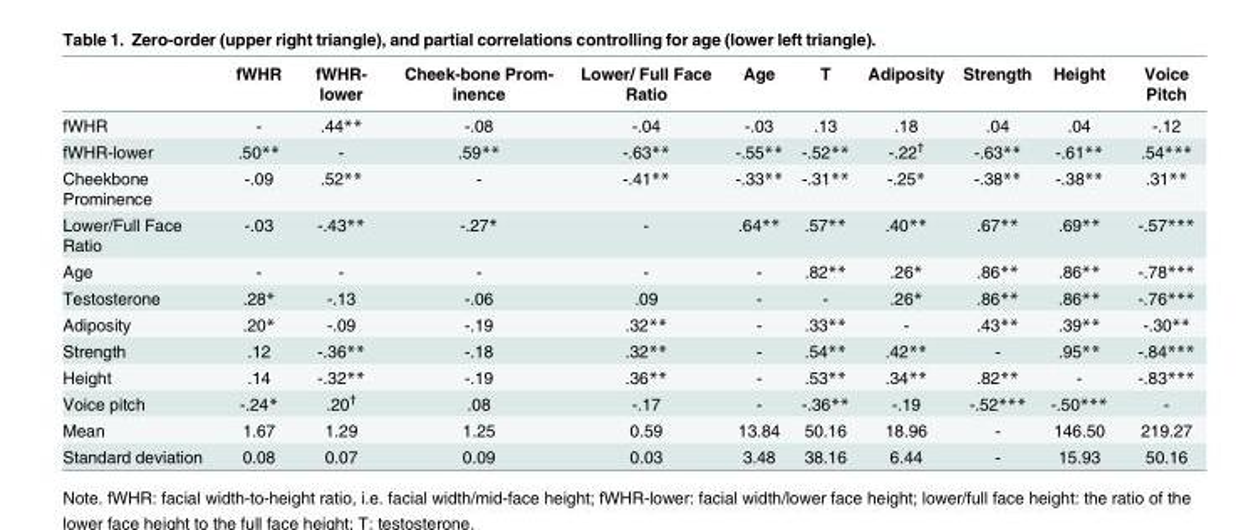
<table><thead><tr><td></td><td>fWHR</td><td>fWHR- lower</td><td>Cheek-bone Prom- inence</td><td>Lower/ Full Face Ratio</td><td>Age</td><td>T</td><td>Adiposity</td><td>Strength</td><td>Height</td><td>Voice Pitch</td></tr></thead><tbody><tr><td>fWHR</td><td>-</td><td>.44**</td><td>-.08</td><td>-.04</td><td>-.03</td><td>.13</td><td>.18</td><td>.04</td><td>.04</td><td>-.12</td></tr><tr><td>fWHR-lower</td><td>.50**</td><td>-</td><td>.59**</td><td>-.63**</td><td>-.55**</td><td>-.52**</td><td>-.22<sup>†</sup></td><td>-.63**</td><td>-.61**</td><td>.54***</td></tr><tr><td>Cheekbone Prominence</td><td>-.09</td><td>.52**</td><td>-</td><td>-.41**</td><td>-.33**</td><td>-.31**</td><td>-.25*</td><td>-.38**</td><td>-.38**</td><td>.31**</td></tr><tr><td>Lower/Full Face Ratio</td><td>-.03</td><td>-.43**</td><td>-.27*</td><td>-</td><td>.64**</td><td>.57**</td><td>.40**</td><td>.67**</td><td>.69**</td><td>-.57***</td></tr><tr><td>Age</td><td>-</td><td>-</td><td>-</td><td>-</td><td>-</td><td>.82**</td><td>.26*</td><td>.86**</td><td>.86**</td><td>-.78***</td></tr><tr><td>Testosterone</td><td>.28*</td><td>-.13</td><td>-.06</td><td>.09</td><td>-</td><td>-</td><td>.26*</td><td>.86**</td><td>.86**</td><td>-.76***</td></tr><tr><td>Adiposity</td><td>.20*</td><td>-.09</td><td>-.19</td><td>.32**</td><td>-</td><td>.33**</td><td>-</td><td>.43**</td><td>.39**</td><td>-.30**</td></tr><tr><td>Strength</td><td>.12</td><td>-.36**</td><td>-.18</td><td>.32**</td><td>-</td><td>.54**</td><td>.42**</td><td>-</td><td>.95**</td><td>-.84***</td></tr><tr><td>Height</td><td>.14</td><td>-.32**</td><td>-.19</td><td>.36**</td><td>-</td><td>.53**</td><td>.34**</td><td>.82**</td><td>-</td><td>-.83***</td></tr><tr><td>Voice pitch</td><td>-.24*</td><td>.20<sup>†</sup></td><td>.08</td><td>-.17</td><td>-</td><td>-.36**</td><td>-.19</td><td>-.52***</td><td>-.50***</td><td>-</td></tr><tr><td>Mean</td><td>1.67</td><td>1.29</td><td>1.25</td><td>0.59</td><td>13.84</td><td>50.16</td><td>18.96</td><td>-</td><td>146.50</td><td>219.27</td></tr><tr><td>Standard deviation</td><td>0.08</td><td>0.07</td><td>0.09</td><td>0.03</td><td>3.48</td><td>38.16</td><td>6.44</td><td>-</td><td>15.93</td><td>50.16</td></tr></tbody></table>